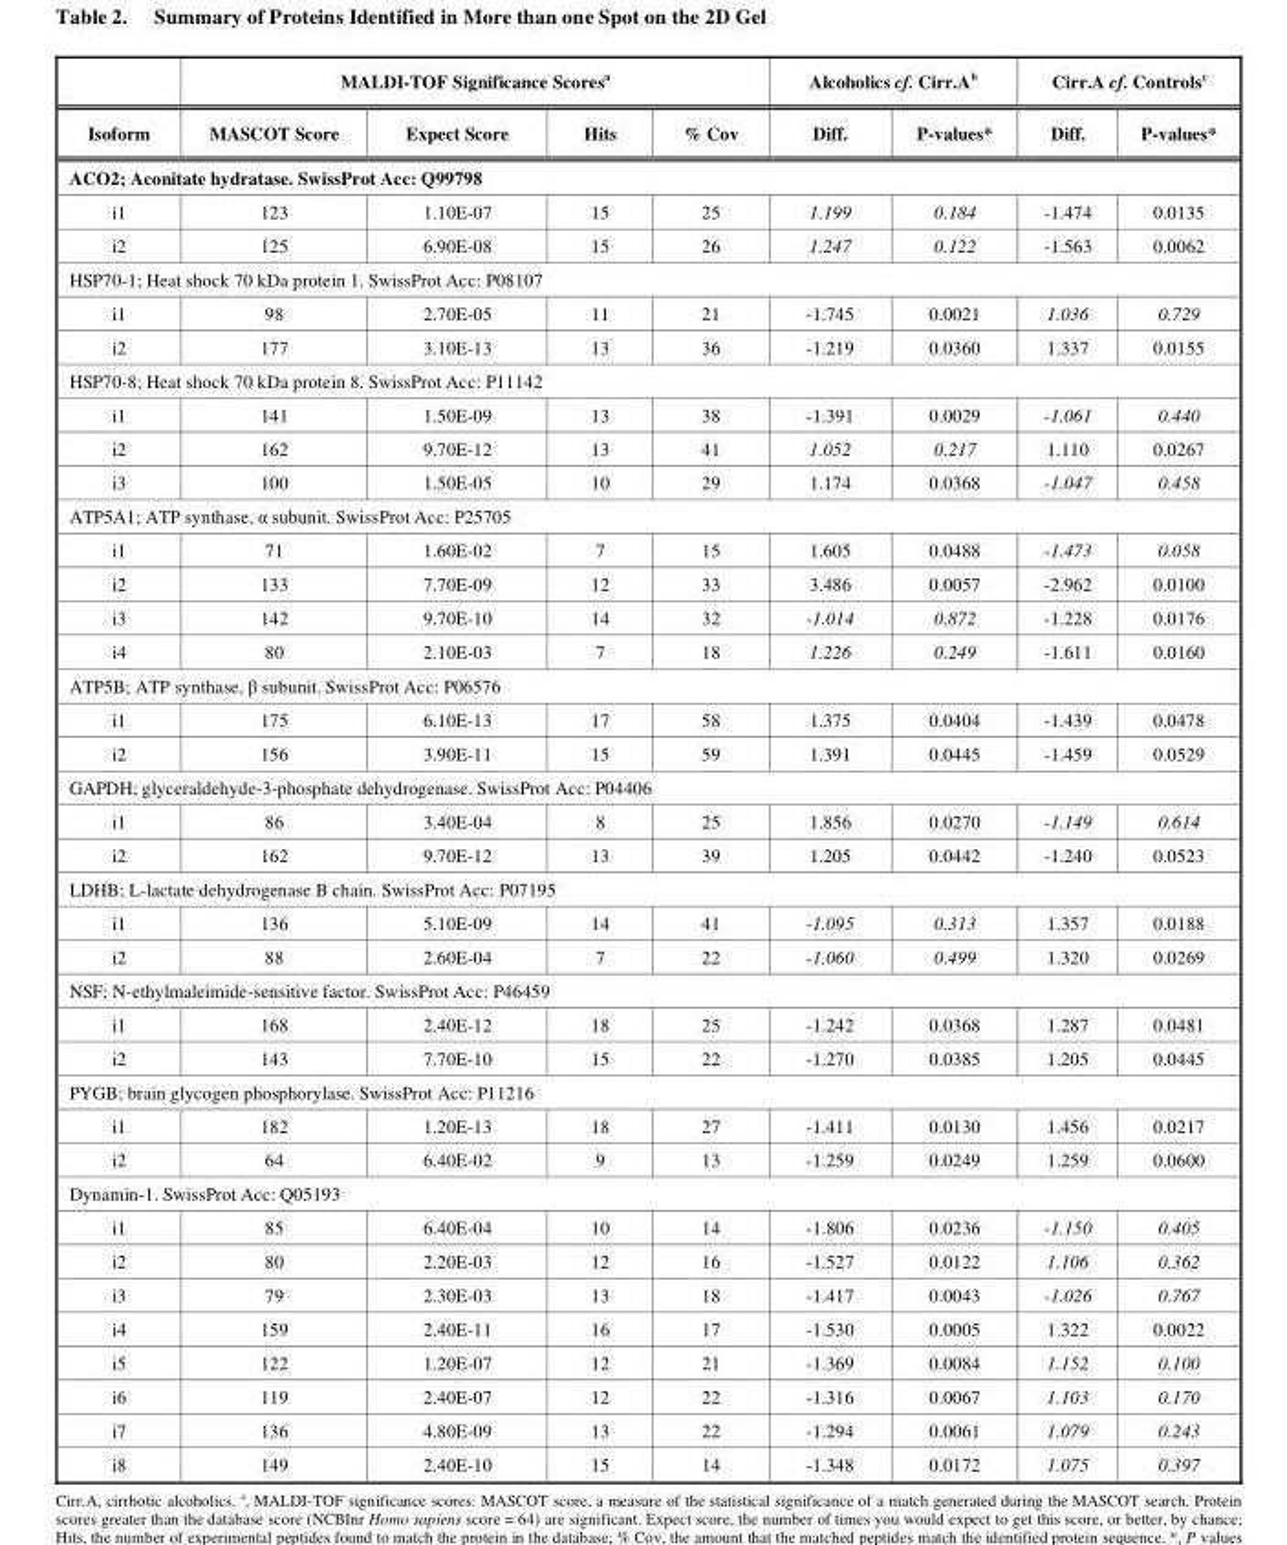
<table><thead><tr><td rowspan="2">Isoform</td><td colspan="4">MALDI-TOF Significance Scores<sup>a</sup></td><td colspan="2">Alcoholics cf. Cirr.A<sup>b</sup></td><td colspan="2">Cirr.A cf. Controls<sup>c</sup></td></tr><tr><td>MASCOT Score</td><td>Expect Score</td><td>Hits</td><td>% Cov</td><td>Diff.</td><td>P-values*</td><td>Diff.</td><td>P-values*</td></tr></thead><tbody><tr><td colspan="9">ACO2; Aconitate hydratase. SwissProt Acc: Q99798</td></tr><tr><td>i1</td><td>123</td><td>1.10E-07</td><td>15</td><td>25</td><td>1.199</td><td>0.184</td><td>-1.474</td><td>0.0135</td></tr><tr><td>i2</td><td>125</td><td>6.90E-08</td><td>15</td><td>26</td><td>1.247</td><td>0.122</td><td>-1.563</td><td>0.0062</td></tr><tr><td colspan="9">HSP70-1; Heat shock 70 kDa protein 1. SwissProt Acc: P08107</td></tr><tr><td>i1</td><td>98</td><td>2.70E-05</td><td>11</td><td>21</td><td>-1.745</td><td>0.0021</td><td>1.036</td><td>0.729</td></tr><tr><td>i2</td><td>177</td><td>3.10E-13</td><td>13</td><td>36</td><td>-1.219</td><td>0.0360</td><td>1.337</td><td>0.0155</td></tr><tr><td colspan="9">HSP70-8; Heat shock 70 kDa protein 8. SwissProt Acc: P11142</td></tr><tr><td>i1</td><td>141</td><td>1.50E-09</td><td>13</td><td>38</td><td>-1.391</td><td>0.0029</td><td>-1.061</td><td>0.440</td></tr><tr><td>i2</td><td>162</td><td>9.70E-12</td><td>13</td><td>41</td><td>1.052</td><td>0.217</td><td>1.110</td><td>0.0267</td></tr><tr><td>i3</td><td>100</td><td>1.50E-05</td><td>10</td><td>29</td><td>1.174</td><td>0.0368</td><td>-1.047</td><td>0.458</td></tr><tr><td colspan="9">ATP5A1; ATP synthase, α subunit. SwissProt Acc: P25705</td></tr><tr><td>i1</td><td>71</td><td>1.60E-02</td><td>7</td><td>15</td><td>1.605</td><td>0.0488</td><td>-1.473</td><td>0.058</td></tr><tr><td>i2</td><td>133</td><td>7.70E-09</td><td>12</td><td>33</td><td>3.486</td><td>0.0057</td><td>-2.962</td><td>0.0100</td></tr><tr><td>i3</td><td>142</td><td>9.70E-10</td><td>14</td><td>32</td><td>-1.014</td><td>0.872</td><td>-1.228</td><td>0.0176</td></tr><tr><td>i4</td><td>80</td><td>2.10E-03</td><td>7</td><td>18</td><td>1.226</td><td>0.249</td><td>-1.611</td><td>0.0160</td></tr><tr><td colspan="9">ATP5B; ATP synthase, β subunit. SwissProt Acc: P06576</td></tr><tr><td>i1</td><td>175</td><td>6.10E-13</td><td>17</td><td>58</td><td>1.375</td><td>0.0404</td><td>-1.439</td><td>0.0478</td></tr><tr><td>i2</td><td>156</td><td>3.90E-11</td><td>15</td><td>59</td><td>1.391</td><td>0.0445</td><td>-1.459</td><td>0.0529</td></tr><tr><td colspan="9">GAPDH; glyceraldehyde-3-phosphate dehydrogenase. SwissProt Acc: P04406</td></tr><tr><td>i1</td><td>86</td><td>3.40E-04</td><td>8</td><td>25</td><td>1.856</td><td>0.0270</td><td>-1.149</td><td>0.614</td></tr><tr><td>i2</td><td>162</td><td>9.70E-12</td><td>13</td><td>39</td><td>1.205</td><td>0.0442</td><td>-1.240</td><td>0.0523</td></tr><tr><td colspan="9">LDHB; L-lactate dehydrogenase B chain. SwissProt Acc: P07195</td></tr><tr><td>i1</td><td>136</td><td>5.10E-09</td><td>14</td><td>41</td><td>-1.095</td><td>0.313</td><td>1.357</td><td>0.0188</td></tr><tr><td>i2</td><td>88</td><td>2.60E-04</td><td>7</td><td>22</td><td>-1.060</td><td>0.499</td><td>1.320</td><td>0.0269</td></tr><tr><td colspan="9">NSF; N-ethylmaleimide-sensitive factor. SwissProt Acc: P46459</td></tr><tr><td>i1</td><td>168</td><td>2.40E-12</td><td>18</td><td>25</td><td>-1.242</td><td>0.0368</td><td>1.287</td><td>0.0481</td></tr><tr><td>i2</td><td>143</td><td>7.70E-10</td><td>15</td><td>22</td><td>-1.270</td><td>0.0385</td><td>1.205</td><td>0.0445</td></tr><tr><td colspan="9">PYGB; brain glycogen phosphorylase. SwissProt Acc: P11216</td></tr><tr><td>i1</td><td>182</td><td>1.20E-13</td><td>18</td><td>27</td><td>-1.411</td><td>0.0130</td><td>1.456</td><td>0.0217</td></tr><tr><td>i2</td><td>64</td><td>6.40E-02</td><td>9</td><td>13</td><td>-1.259</td><td>0.0249</td><td>1.259</td><td>0.0600</td></tr><tr><td colspan="9">Dynamin-1. SwissProt Acc: Q05193</td></tr><tr><td>i1</td><td>85</td><td>6.40E-04</td><td>10</td><td>14</td><td>-1.806</td><td>0.0236</td><td>-1.150</td><td>0.405</td></tr><tr><td>i2</td><td>80</td><td>2.20E-03</td><td>12</td><td>16</td><td>-1.527</td><td>0.0122</td><td>1.106</td><td>0.362</td></tr><tr><td>i3</td><td>79</td><td>2.30E-03</td><td>13</td><td>18</td><td>-1.417</td><td>0.0043</td><td>-1.026</td><td>0.767</td></tr><tr><td>i4</td><td>159</td><td>2.40E-11</td><td>16</td><td>17</td><td>-1.530</td><td>0.0005</td><td>1.322</td><td>0.0022</td></tr><tr><td>i5</td><td>122</td><td>1.20E-07</td><td>12</td><td>21</td><td>-1.369</td><td>0.0084</td><td>1.152</td><td>0.100</td></tr><tr><td>i6</td><td>119</td><td>2.40E-07</td><td>12</td><td>22</td><td>-1.316</td><td>0.0067</td><td>1.103</td><td>0.170</td></tr><tr><td>i7</td><td>136</td><td>4.80E-09</td><td>13</td><td>22</td><td>-1.294</td><td>0.0061</td><td>1.079</td><td>0.243</td></tr><tr><td>i8</td><td>149</td><td>2.40E-10</td><td>15</td><td>14</td><td>-1.348</td><td>0.0172</td><td>1.075</td><td>0.397</td></tr></tbody></table>